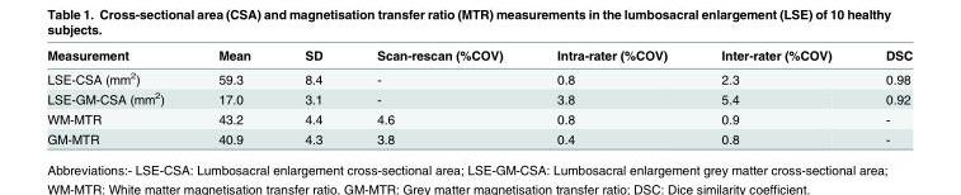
<table><thead><tr><td>Measurement</td><td>Mean</td><td>SD</td><td>Scan-rescan (%COV)</td><td>Intra-rater (%COV)</td><td>Inter-rater (%COV)</td><td>DSC</td></tr></thead><tbody><tr><td>LSE-CSA (mm<sup>2</sup>)</td><td>59.3</td><td>8.4</td><td>-</td><td>0.8</td><td>2.3</td><td>0.98</td></tr><tr><td>LSE-GM-CSA (mm<sup>2</sup>)</td><td>17.0</td><td>3.1</td><td>-</td><td>3.8</td><td>5.4</td><td>0.92</td></tr><tr><td>WM-MTR</td><td>43.2</td><td>4.4</td><td>4.6</td><td>0.8</td><td>0.9</td><td>-</td></tr><tr><td>GM-MTR</td><td>40.9</td><td>4.3</td><td>3.8</td><td>0.4</td><td>0.8</td><td>-</td></tr></tbody></table>